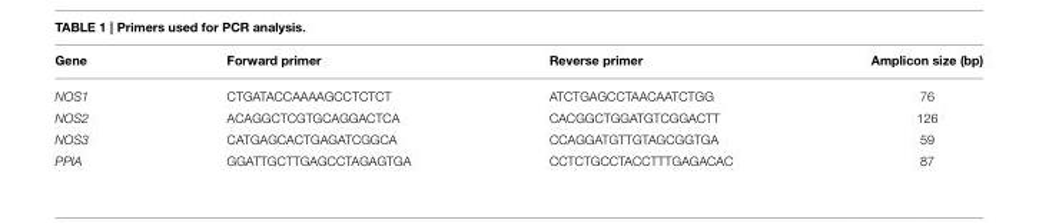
<table><thead><tr><td>Gene</td><td>Forward primer</td><td>Reverse primer</td><td>Amplicon size (bp)</td></tr></thead><tbody><tr><td>NOS1</td><td>CTGATACCAAAAGCCTCTCT</td><td>ATCTGAGCCTAACAATCTGG</td><td>76</td></tr><tr><td>NOS2</td><td>ACAGGCTCGTGCAGGACTCA</td><td>CACGGCTGGATGTCGGACTT</td><td>126</td></tr><tr><td>NOS3</td><td>CATGAGCACTGAGATCGGCA</td><td>CCAGGATGTTGTAGCGGTGA</td><td>59</td></tr><tr><td>PPIA</td><td>GGATTGCTTGAGCCTAGAGTGA</td><td>CCTCTGCCTACCTTTGAGACAC</td><td>87</td></tr></tbody></table>